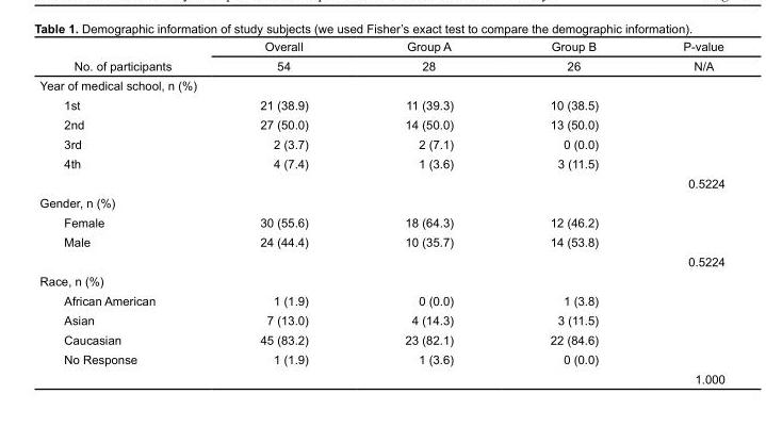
<table><thead><tr><td rowspan="2">No. of participants</td><td rowspan="2">Overall 54</td><td rowspan="2">Group A 28</td><td rowspan="2">Group B 26</td><td rowspan="2">P-value N/A</td></tr><tr></tr></thead><tbody><tr><td colspan="5">Year of medical school, n (%)</td></tr><tr><td>1st</td><td>21 (38.9)</td><td>11 (39.3)</td><td>10 (38.5)</td><td></td></tr><tr><td>2nd</td><td>27 (50.0)</td><td>14 (50.0)</td><td>13 (50.0)</td><td></td></tr><tr><td>3rd</td><td>2 (3.7)</td><td>2 (7.1)</td><td>0 (0.0)</td><td></td></tr><tr><td rowspan="2">4th</td><td>4 (7.4)</td><td>1 (3.6)</td><td>3 (11.5)</td><td></td></tr><tr><td></td><td></td><td></td><td>0.5224</td></tr><tr><td colspan="5">Gender, n (%)</td></tr><tr><td>Female</td><td>30 (55.6)</td><td>18 (64.3)</td><td>12 (46.2)</td><td></td></tr><tr><td rowspan="2">Male</td><td>24 (44.4)</td><td>10 (35.7)</td><td>14 (53.8)</td><td></td></tr><tr><td></td><td></td><td></td><td>0.5224</td></tr><tr><td colspan="5">Race, n (%)</td></tr><tr><td>African American</td><td>1 (1.9)</td><td>0 (0.0)</td><td>1 (3.8)</td><td></td></tr><tr><td>Asian</td><td>7 (13.0)</td><td>4 (14.3)</td><td>3 (11.5)</td><td></td></tr><tr><td>Caucasian</td><td>45 (83.2)</td><td>23 (82.1)</td><td>22 (84.6)</td><td></td></tr><tr><td rowspan="2">No Response</td><td>1 (1.9)</td><td>1 (3.6)</td><td>0 (0.0)</td><td></td></tr><tr><td></td><td></td><td></td><td>1.000</td></tr></tbody></table>